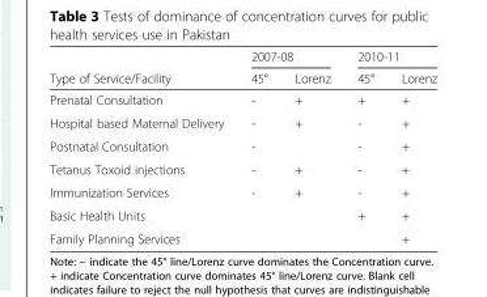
<table><thead><tr><td rowspan="2">Type of Service/Facility</td><td colspan="2">2007-08</td><td colspan="2">2010-11</td></tr><tr><td>45°</td><td>Lorenz</td><td>45°</td><td>Lorenz</td></tr></thead><tbody><tr><td>Prenatal Consultation</td><td>-</td><td>+</td><td>+</td><td>+</td></tr><tr><td>Hospital based Maternal Delivery</td><td>-</td><td>+</td><td>-</td><td>+</td></tr><tr><td>Postnatal Consultation</td><td>-</td><td></td><td>-</td><td>+</td></tr><tr><td>Tetanus Toxoid injections</td><td>-</td><td>+</td><td>-</td><td>+</td></tr><tr><td>Immunization Services</td><td>-</td><td>+</td><td>-</td><td>+</td></tr><tr><td>Basic Health Units</td><td></td><td></td><td>+</td><td>+</td></tr><tr><td>Family Planning Services</td><td></td><td></td><td></td><td>+</td></tr></tbody></table>